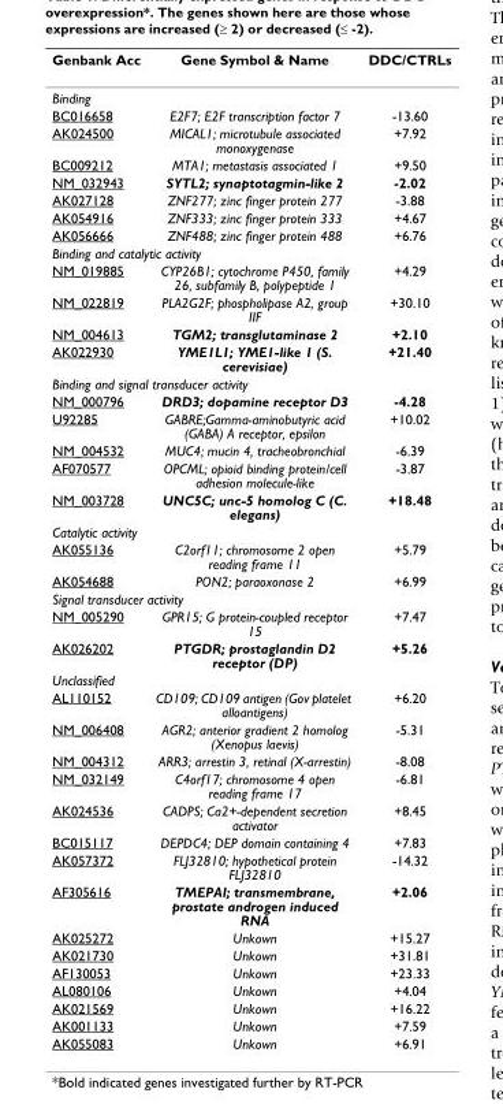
<table><thead><tr><td>Genbank Acc</td><td>Gene Symbol &amp; Name</td><td>DDC/CTRLs</td></tr></thead><tbody><tr><td colspan="3">Binding</td></tr><tr><td>BC016658</td><td>E2F7; E2F transcription factor 7</td><td>-13.60</td></tr><tr><td>AK024500</td><td>MICAL1; microtubule associated monoxygenase</td><td>+7.92</td></tr><tr><td>BC009212</td><td>MTA1; metastasis associated 1</td><td>+9.50</td></tr><tr><td>NM_032943</td><td>SYTL2; synaptotagmin-like 2</td><td>-2.02</td></tr><tr><td>AK027128</td><td>ZNF277; zinc finger protein 277</td><td>-3.88</td></tr><tr><td>AK054916</td><td>ZNF333; zinc finger protein 333</td><td>+4.67</td></tr><tr><td>AK056666</td><td>ZNF488; zinc finger protein 488</td><td>+6.76</td></tr><tr><td colspan="3">Binding and catalytic activity</td></tr><tr><td>NM_019885</td><td>CYP26B1; cytochrome P450, family 26, subfamily B, polypeptide 1</td><td>+4.29</td></tr><tr><td>NM_022819</td><td>PLA2G2F; phospholipase A2, group IIF</td><td>+30.10</td></tr><tr><td>NM_004613</td><td>TGM2; transglutaminase 2</td><td>+2.10</td></tr><tr><td>AK022930</td><td>YME1L1; YME1-like 1 (S. cerevisiae)</td><td>+21.40</td></tr><tr><td colspan="3">Binding and signal transducer activity</td></tr><tr><td>NM_000796</td><td>DRD3; dopamine receptor D3</td><td>-4.28</td></tr><tr><td>U92285</td><td>GABRE;Gamma-aminobutyric acid (GABA) A receptor, epsilon</td><td>+10.02</td></tr><tr><td>NM_004532</td><td>MUC4; mucin 4, tracheobronchial</td><td>-6.39</td></tr><tr><td>AF070577</td><td>OPCML; opioid binding protein/cell adhesion molecule-like</td><td>-3.87</td></tr><tr><td>NM_003728</td><td>UNC5C; unc-5 homolog C (C. elegans)</td><td>+18.48</td></tr><tr><td colspan="3">Catalytic activity</td></tr><tr><td>AK055136</td><td>C2orf11; chromosome 2 open reading frame 11</td><td>+5.79</td></tr><tr><td>AK054688</td><td>PON2; paraoxonase 2</td><td>+6.99</td></tr><tr><td colspan="3">Signal transducer activity</td></tr><tr><td>NM_005290</td><td>GPR15; G protein-coupled receptor 15</td><td>+7.47</td></tr><tr><td>AK026202</td><td>PTGDR; prostaglandin D2 receptor (DP)</td><td>+5.26</td></tr><tr><td colspan="3">Unclassified</td></tr><tr><td>AL110152</td><td>CD109; CD109 antigen (Gov platelet alloantigens)</td><td>+6.20</td></tr><tr><td>NM_006408</td><td>AGR2; anterior gradient 2 homolog (Xenopus laevis)</td><td>-5.31</td></tr><tr><td>NM_004312</td><td>ARR3; arrestin 3, retinal (X-arrestin)</td><td>-8.08</td></tr><tr><td>NM_032149</td><td>C4orf17; chromosome 4 open reading frame 17</td><td>-6.81</td></tr><tr><td>AK024536</td><td>CADPS; Ca2+-dependent secretion activator</td><td>+8.45</td></tr><tr><td>BC015117</td><td>DEPDC4; DEP domain containing 4</td><td>+7.83</td></tr><tr><td>AK057372</td><td>FLJ32810; hypothetical protein FLJ32810</td><td>-14.32</td></tr><tr><td>AF305616</td><td>TMEPAI; transmembrane, prostate androgen induced RNA</td><td>+2.06</td></tr><tr><td>AK025272</td><td>Unkown</td><td>+15.27</td></tr><tr><td>AK021730</td><td>Unkown</td><td>+31.81</td></tr><tr><td>AF130053</td><td>Unkown</td><td>+23.33</td></tr><tr><td>AL080106</td><td>Unkown</td><td>+4.04</td></tr><tr><td>AK021569</td><td>Unkown</td><td>+16.22</td></tr><tr><td>AK001133</td><td>Unkown</td><td>+7.59</td></tr><tr><td>AK055083</td><td>Unkown</td><td>+6.91</td></tr></tbody></table>